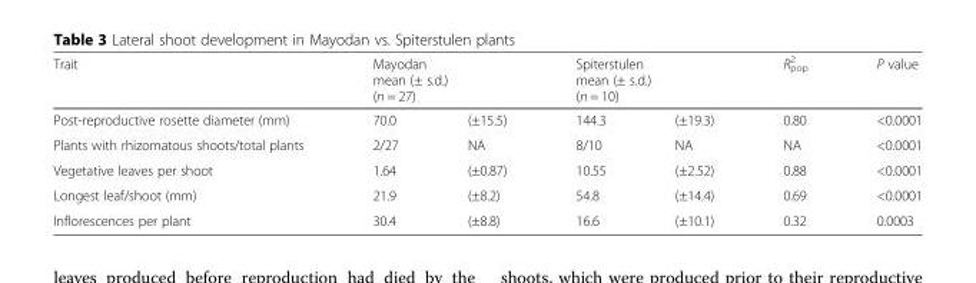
<table><thead><tr><td rowspan="4">Trait Post-reproductive rosette diameter (mm)</td><td rowspan="3" colspan="2">Mayodan mean (± s.d.) (n = 27)</td><td rowspan="3" colspan="2">Spiterstulen mean (± s.d.) (n = 10)</td><td rowspan="4">R<sup>2</sup> <sub>pop</sub> 0.80</td><td rowspan="4">P value &lt;0.0001</td></tr><tr></tr><tr></tr><tr><td>70.0</td><td>(±15.5)</td><td>144.3</td><td>(±19.3)</td></tr></thead><tbody><tr><td>Plants with rhizomatous shoots/total plants</td><td>2/27</td><td>NA</td><td>8/10</td><td>NA</td><td>NA</td><td>&lt;0.0001</td></tr><tr><td>Vegetative leaves per shoot</td><td>1.64</td><td>(±0.87)</td><td>10.55</td><td>(±2.52)</td><td>0.88</td><td>&lt;0.0001</td></tr><tr><td>Longest leaf/shoot (mm)</td><td>21.9</td><td>(±8.2)</td><td>54.8</td><td>(±14.4)</td><td>0.69</td><td>&lt;0.0001</td></tr><tr><td>Inflorescences per plant</td><td>30.4</td><td>(±8.8)</td><td>16.6</td><td>(±10.1)</td><td>0.32</td><td>0.0003</td></tr></tbody></table>